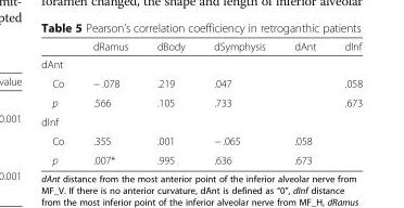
<table><thead><tr><td></td><td>dRamus</td><td>dBody</td><td>dSymphysis</td><td>dAnt</td><td>dInf</td></tr></thead><tbody><tr><td colspan="6">dAnt</td></tr><tr><td>Co</td><td>− .078</td><td>.219</td><td>.047</td><td></td><td>.058</td></tr><tr><td>p</td><td>.566</td><td>.105</td><td>.733</td><td></td><td>.673</td></tr><tr><td colspan="6">dInf</td></tr><tr><td>Co</td><td>.355</td><td>.001</td><td>− .065</td><td>.058</td><td></td></tr><tr><td>p</td><td>.007*</td><td>.995</td><td>.636</td><td>.673</td><td></td></tr></tbody></table>